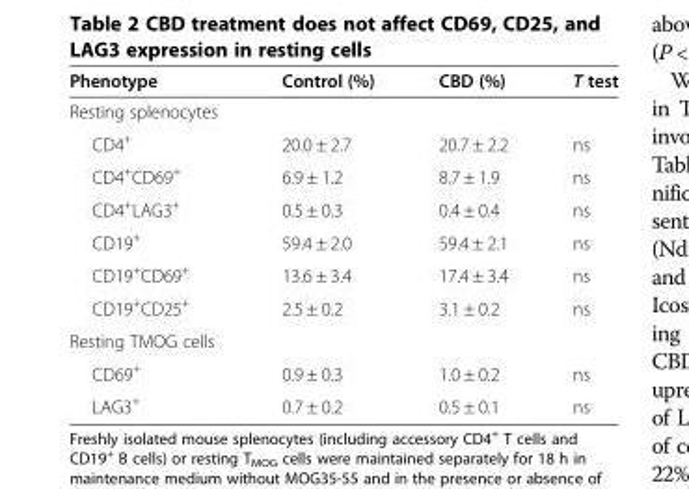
<table><thead><tr><td>Phenotype</td><td>Control (%)</td><td>CBD (%)</td><td>T test</td></tr></thead><tbody><tr><td colspan="4">Resting splenocytes</td></tr><tr><td>CD4<sup>+</sup></td><td>20.0 ± 2.7</td><td>20.7 ± 2.2</td><td>ns</td></tr><tr><td>CD4<sup>+</sup>CD69<sup>+</sup></td><td>6.9 ± 1.2</td><td>8.7 ± 1.9</td><td>ns</td></tr><tr><td>CD4<sup>+</sup>LAG3<sup>+</sup></td><td>0.5 ± 0.3</td><td>0.4 ± 0.4</td><td>ns</td></tr><tr><td>CD19<sup>+</sup></td><td>59.4 ± 2.0</td><td>59.4 ± 2.1</td><td>ns</td></tr><tr><td>CD19<sup>+</sup>CD69<sup>+</sup></td><td>13.6 ± 3.4</td><td>17.4 ± 3.4</td><td>ns</td></tr><tr><td>CD19<sup>+</sup>CD25<sup>+</sup></td><td>2.5 ± 0.2</td><td>3.1 ± 0.2</td><td>ns</td></tr><tr><td colspan="4">Resting TMOG cells</td></tr><tr><td>CD69<sup>+</sup></td><td>0.9 ± 0.3</td><td>1.0 ± 0.2</td><td>ns</td></tr><tr><td>LAG3<sup>+</sup></td><td>0.7 ± 0.2</td><td>0.5 ± 0.1</td><td>ns</td></tr></tbody></table>